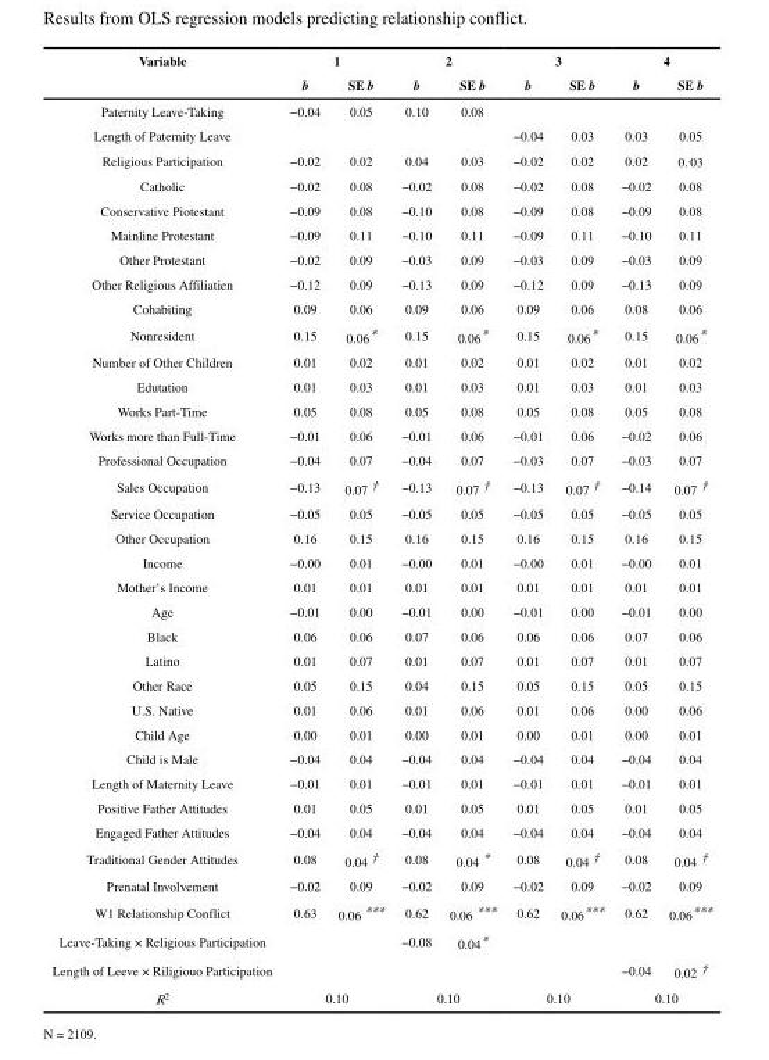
<table><thead><tr><td rowspan="2">Variable</td><td colspan="2">1</td><td colspan="2">2</td><td colspan="2">3</td><td colspan="2">4</td></tr><tr><td>b</td><td>SE b</td><td>b</td><td>SE b</td><td>b</td><td>SE b</td><td>b</td><td>SE b</td></tr></thead><tbody><tr><td>Paternity Leave-Taking</td><td>−0.04</td><td>0.05</td><td>0.10</td><td>0.08</td><td></td><td></td><td></td><td></td></tr><tr><td>Length of Paternity Leave</td><td></td><td></td><td></td><td></td><td>−0.04</td><td>0.03</td><td>0.03</td><td>0.05</td></tr><tr><td>Religious Participation</td><td>−0.02</td><td>0.02</td><td>0.04</td><td>0.03</td><td>−0.02</td><td>0.02</td><td>0.02</td><td>0.<sup>.</sup>03</td></tr><tr><td>Catholic</td><td>−0.02</td><td>0.08</td><td>−0.02</td><td>0.08</td><td>−0.02</td><td>0.08</td><td>−0.02</td><td>0.08</td></tr><tr><td>Conservative Piotestant</td><td>−0.09</td><td>0.08</td><td>−0.10</td><td>0.08</td><td>−0.09</td><td>0.08</td><td>−0.09</td><td>0.08</td></tr><tr><td>Mainline Protestant</td><td>−0.09</td><td>0.11</td><td>−0.10</td><td>0.11</td><td>−0.09</td><td>0.11</td><td>−0.10</td><td>0.11</td></tr><tr><td>Other Protestant</td><td>−0.02</td><td>0.09</td><td>−0.03</td><td>0.09</td><td>−0.03</td><td>0.09</td><td>−0.03</td><td>0.09</td></tr><tr><td>Other Religious Affiliatien</td><td>−0.12</td><td>0.09</td><td>−0.13</td><td>0.09</td><td>−0.12</td><td>0.09</td><td>−0.13</td><td>0.09</td></tr><tr><td>Cohabiting</td><td>0.09</td><td>0.06</td><td>0.09</td><td>0.06</td><td>0.09</td><td>0.06</td><td>0.08</td><td>0.06</td></tr><tr><td>Nonresident</td><td>0.15</td><td>0.06*</td><td>0.15</td><td>0.06*</td><td>0.15</td><td>0.06*</td><td>0.15</td><td>0.06*</td></tr><tr><td>Number of Other Children</td><td>0.01</td><td>0.02</td><td>0.01</td><td>0.02</td><td>0.01</td><td>0.02</td><td>0.01</td><td>0.02</td></tr><tr><td>Edutation</td><td>0.01</td><td>0.03</td><td>0.01</td><td>0.03</td><td>0.01</td><td>0.03</td><td>0.01</td><td>0.03</td></tr><tr><td>Works Part-Time</td><td>0.05</td><td>0.08</td><td>0.05</td><td>0.08</td><td>0.05</td><td>0.08</td><td>0.05</td><td>0.08</td></tr><tr><td>Works more than Full-Time</td><td>−0.01</td><td>0.06</td><td>−0.01</td><td>0.06</td><td>−0.01</td><td>0.06</td><td>−0.02</td><td>0.06</td></tr><tr><td>Professional Occupation</td><td>−0.04</td><td>0.07</td><td>−0.04</td><td>0.07</td><td>−0.03</td><td>0.07</td><td>−0.03</td><td>0.07</td></tr><tr><td>Sales Occupation</td><td>−0.13</td><td>0.07 †</td><td>−0.13</td><td>0.07 †</td><td>−0.13</td><td>0.07 †</td><td>−0.14</td><td>0.07 †</td></tr><tr><td>Service Occupation</td><td>−0.05</td><td>0.05</td><td>−0.05</td><td>0.05</td><td>−0.05</td><td>0.05</td><td>−0.05</td><td>0.05</td></tr><tr><td>Other Occupation</td><td>0.16</td><td>0.15</td><td>0.16</td><td>0.15</td><td>0.16</td><td>0.15</td><td>0.16</td><td>0.15</td></tr><tr><td>Income</td><td>−0.00</td><td>0.01</td><td>−0.00</td><td>0.01</td><td>−0.00</td><td>0.01</td><td>−0.00</td><td>0.01</td></tr><tr><td>Mother’s Income</td><td>0.01</td><td>0.01</td><td>0.01</td><td>0.01</td><td>0.01</td><td>0.01</td><td>0.01</td><td>0.01</td></tr><tr><td>Age</td><td>−0.01</td><td>0.00</td><td>−0.01</td><td>0.00</td><td>−0.01</td><td>0.00</td><td>−0.01</td><td>0.00</td></tr><tr><td>Black</td><td>0.06</td><td>0.06</td><td>0.07</td><td>0.06</td><td>0.06</td><td>0.06</td><td>0.07</td><td>0.06</td></tr><tr><td>Latino</td><td>0.01</td><td>0.07</td><td>0.01</td><td>0.07</td><td>0.01</td><td>0.07</td><td>0.01</td><td>0.07</td></tr><tr><td>Other Race</td><td>0.05</td><td>0.15</td><td>0.04</td><td>0.15</td><td>0.05</td><td>0.15</td><td>0.05</td><td>0.15</td></tr><tr><td>U.S. Native</td><td>0.01</td><td>0.06</td><td>0.01</td><td>0.06</td><td>0.01</td><td>0.06</td><td>0.00</td><td>0.06</td></tr><tr><td>Child Age</td><td>0.00</td><td>0.01</td><td>0.00</td><td>0.01</td><td>0.00</td><td>0.01</td><td>0.00</td><td>0.01</td></tr><tr><td>Child is Male</td><td>−0.04</td><td>0.04</td><td>−0.04</td><td>0.04</td><td>−0.04</td><td>0.04</td><td>−0.04</td><td>0.04</td></tr><tr><td>Length of Maternity Leave</td><td>−0.01</td><td>0.01</td><td>−0.01</td><td>0.01</td><td>−0.01</td><td>0.01</td><td>−0.01</td><td>0.01</td></tr><tr><td>Positive Father Attitudes</td><td>0.01</td><td>0.05</td><td>0.01</td><td>0.05</td><td>0.01</td><td>0.05</td><td>0.01</td><td>0.05</td></tr><tr><td>Engaged Father Attitudes</td><td>−0.04</td><td>0.04</td><td>−0.04</td><td>0.04</td><td>−0.04</td><td>0.04</td><td>−0.04</td><td>0.04</td></tr><tr><td>Traditional Gender Attitudes</td><td>0.08</td><td>0.04 †</td><td>0.08</td><td>0.04 *</td><td>0.08</td><td>0.04 †</td><td>0.08</td><td>0.04 †</td></tr><tr><td>Prenatal Involvement</td><td>−0.02</td><td>0.09</td><td>−0.02</td><td>0.09</td><td>−0.02</td><td>0.09</td><td>−0.02</td><td>0.09</td></tr><tr><td>W1 Relationship Conflict</td><td>0.63</td><td>0.06 ***</td><td>0.62</td><td>0.06 ***</td><td>0.62</td><td>0.06***</td><td>0.62</td><td>0.06***</td></tr><tr><td>Leave-Taking × Religious Participation</td><td></td><td></td><td>−0.08</td><td>0.04*</td><td></td><td></td><td></td><td></td></tr><tr><td>Length of Leeve × Riligiouo Participation</td><td></td><td></td><td></td><td></td><td></td><td></td><td>−0.04</td><td>0.02 †</td></tr><tr><td>R<sup>2</sup></td><td colspan="2">0.10</td><td colspan="2">0.10</td><td colspan="2">0.10</td><td colspan="2">0.10</td></tr></tbody></table>